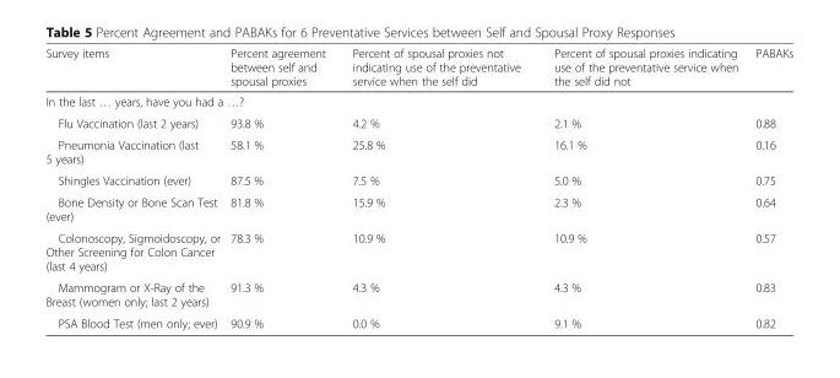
<table><thead><tr><td>Survey items</td><td>Percent agreement between self and spousal proxies</td><td>Percent of spousal proxies not indicating use of the preventative service when the self did</td><td>Percent of spousal proxies indicating use of the preventative service when the self did not</td><td>PABAKs</td></tr></thead><tbody><tr><td colspan="5">In the last … years, have you had a …?</td></tr><tr><td>Flu Vaccination (last 2 years)</td><td>93.8 %</td><td>4.2 %</td><td>2.1 %</td><td>0.88</td></tr><tr><td>Pneumonia Vaccination (last 5 years)</td><td>58.1 %</td><td>25.8 %</td><td>16.1 %</td><td>0.16</td></tr><tr><td>Shingles Vaccination (ever)</td><td>87.5 %</td><td>7.5 %</td><td>5.0 %</td><td>0.75</td></tr><tr><td>Bone Density or Bone Scan Test (ever)</td><td>81.8 %</td><td>15.9 %</td><td>2.3 %</td><td>0.64</td></tr><tr><td>Colonoscopy, Sigmoidoscopy, or Other Screening for Colon Cancer (last 4 years)</td><td>78.3 %</td><td>10.9 %</td><td>10.9 %</td><td>0.57</td></tr><tr><td>Mammogram or X-Ray of the Breast (women only; last 2 years)</td><td>91.3 %</td><td>4.3 %</td><td>4.3 %</td><td>0.83</td></tr><tr><td>PSA Blood Test (men only; ever)</td><td>90.9 %</td><td>0.0 %</td><td>9.1 %</td><td>0.82</td></tr></tbody></table>